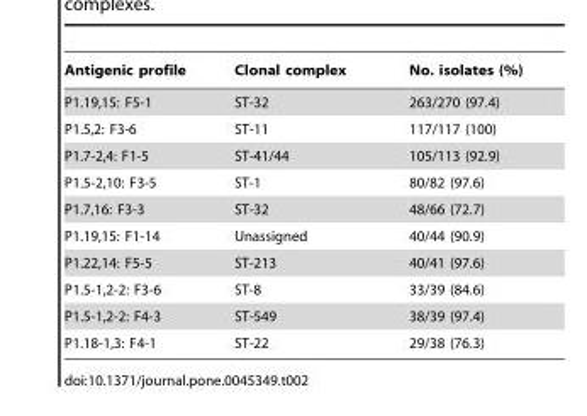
<table><thead><tr><td>Antigenic profile</td><td>Clonal complex</td><td>No. isolates (%)</td></tr></thead><tbody><tr><td>P1.19,15: F5-1</td><td>ST-32</td><td>263/270 (97.4)</td></tr><tr><td>P1.5,2: F3-6</td><td>ST-11</td><td>117/117 (100)</td></tr><tr><td>P1.7-2,4: F1-5</td><td>ST-41/44</td><td>105/113 (92.9)</td></tr><tr><td>P1.5-2,10: F3-5</td><td>ST-1</td><td>80/82 (97.6)</td></tr><tr><td>P1.7,16: F3-3</td><td>ST-32</td><td>48/66 (72.7)</td></tr><tr><td>P1.19,15: F1-14</td><td>Unassigned</td><td>40/44 (90.9)</td></tr><tr><td>P1.22,14: F5-5</td><td>ST-213</td><td>40/41 (97.6)</td></tr><tr><td>P1.5-1,2-2: F3-6</td><td>ST-8</td><td>33/39 (84.6)</td></tr><tr><td>P1.5-1,2-2: F4-3</td><td>ST-549</td><td>38/39 (97.4)</td></tr><tr><td>P1.18-1,3: F4-1</td><td>ST-22</td><td>29/38 (76.3)</td></tr></tbody></table>